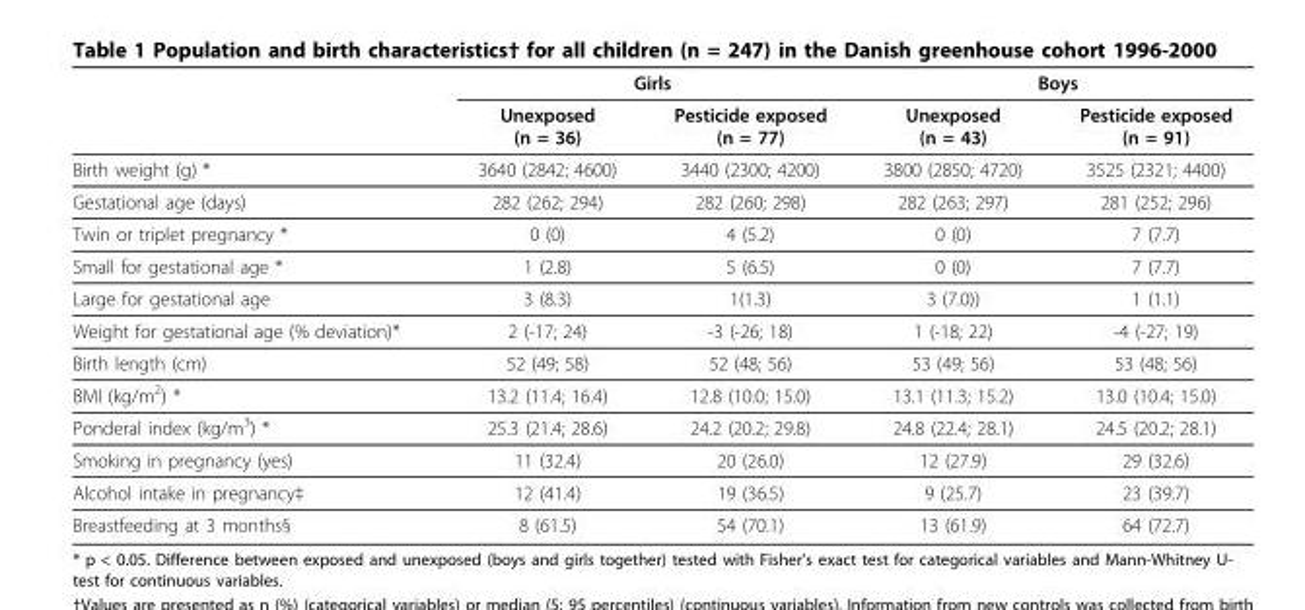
<table><thead><tr><td rowspan="2"></td><td colspan="2">Girls</td><td colspan="2">Boys</td></tr><tr><td>Unexposed (n = 36)</td><td>Pesticide exposed (n = 77)</td><td>Unexposed (n = 43)</td><td>Pesticide exposed (n = 91)</td></tr></thead><tbody><tr><td>Birth weight (g) *</td><td>3640 (2842; 4600)</td><td>3440 (2300; 4200)</td><td>3800 (2850; 4720)</td><td>3525 (2321; 4400)</td></tr><tr><td>Gestational age (days)</td><td>282 (262; 294)</td><td>282 (260; 298)</td><td>282 (263; 297)</td><td>281 (252; 296)</td></tr><tr><td>Twin or triplet pregnancy *</td><td>0 (0)</td><td>4 (5.2)</td><td>0 (0)</td><td>7 (7.7)</td></tr><tr><td>Small for gestational age *</td><td>1 (2.8)</td><td>5 (6.5)</td><td>0 (0)</td><td>7 (7.7)</td></tr><tr><td>Large for gestational age</td><td>3 (8.3)</td><td>1(1.3)</td><td>3 (7.0))</td><td>1 (1.1)</td></tr><tr><td>Weight for gestational age (% deviation)*</td><td>2 (-17; 24)</td><td>-3 (-26; 18)</td><td>1 (-18; 22)</td><td>-4 (-27; 19)</td></tr><tr><td>Birth length (cm)</td><td>52 (49; 58)</td><td>52 (48; 56)</td><td>53 (49; 56)</td><td>53 (48; 56)</td></tr><tr><td>BMI (kg/m<sup>2</sup>) *</td><td>13.2 (11.4; 16.4)</td><td>12.8 (10.0; 15.0)</td><td>13.1 (11.3; 15.2)</td><td>13.0 (10.4; 15.0)</td></tr><tr><td>Ponderal index (kg/m<sup>3</sup>) *</td><td>25.3 (21.4; 28.6)</td><td>24.2 (20.2; 29.8)</td><td>24.8 (22.4; 28.1)</td><td>24.5 (20.2; 28.1)</td></tr><tr><td>Smoking in pregnancy (yes)</td><td>11 (32.4)</td><td>20 (26.0)</td><td>12 (27.9)</td><td>29 (32.6)</td></tr><tr><td>Alcohol intake in pregnancy‡</td><td>12 (41.4)</td><td>19 (36.5)</td><td>9 (25.7)</td><td>23 (39.7)</td></tr><tr><td>Breastfeeding at 3 months§</td><td>8 (61.5)</td><td>54 (70.1)</td><td>13 (61.9)</td><td>64 (72.7)</td></tr></tbody></table>